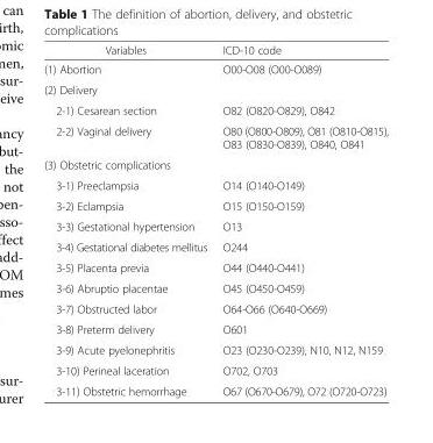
<table><thead><tr><td>Variables</td><td>ICD-10 code</td></tr></thead><tbody><tr><td>(1) Abortion</td><td>O00-O08 (O00-O089)</td></tr><tr><td colspan="2">(2) Delivery</td></tr><tr><td>2-1) Cesarean section</td><td>O82 (O820-O829), O842</td></tr><tr><td>2-2) Vaginal delivery</td><td>O80 (O800-O809), O81 (O810-O815), O83 (O830-O839), O840, O841</td></tr><tr><td colspan="2">(3) Obstetric complications</td></tr><tr><td>3-1) Preeclampsia</td><td>O14 (O140-O149)</td></tr><tr><td>3-2) Eclampsia</td><td>O15 (O150-O159)</td></tr><tr><td>3-3) Gestational hypertension</td><td>O13</td></tr><tr><td>3-4) Gestational diabetes mellitus</td><td>O244</td></tr><tr><td>3-5) Placenta previa</td><td>O44 (O440-O441)</td></tr><tr><td>3-6) Abruptio placentae</td><td>O45 (O450-O459)</td></tr><tr><td>3-7) Obstructed labor</td><td>O64-O66 (O640-O669)</td></tr><tr><td>3-8) Preterm delivery</td><td>O601</td></tr><tr><td>3-9) Acute pyelonephritis</td><td>O23 (O230-O239), N10, N12, N159</td></tr><tr><td>3-10) Perineal laceration</td><td>O702, O703</td></tr><tr><td>3-11) Obstetric hemorrhage</td><td>O67 (O670-O679), O72 (O720-O723)</td></tr></tbody></table>